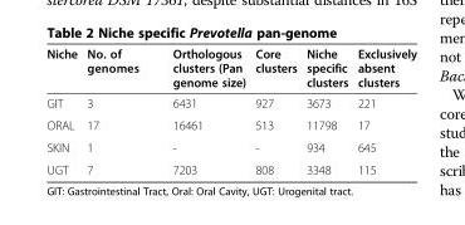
<table><thead><tr><td>Niche</td><td>No. of genomes</td><td>Orthologous clusters (Pan genome size)</td><td>Core clusters</td><td>Niche specific clusters</td><td>Exclusively absent clusters</td></tr></thead><tbody><tr><td>GIT</td><td>3</td><td>6431</td><td>927</td><td>3673</td><td>221</td></tr><tr><td>ORAL</td><td>17</td><td>16461</td><td>513</td><td>11798</td><td>17</td></tr><tr><td>SKIN</td><td>1</td><td>-</td><td>-</td><td>934</td><td>645</td></tr><tr><td>UGT</td><td>7</td><td>7203</td><td>808</td><td>3348</td><td>115</td></tr></tbody></table>